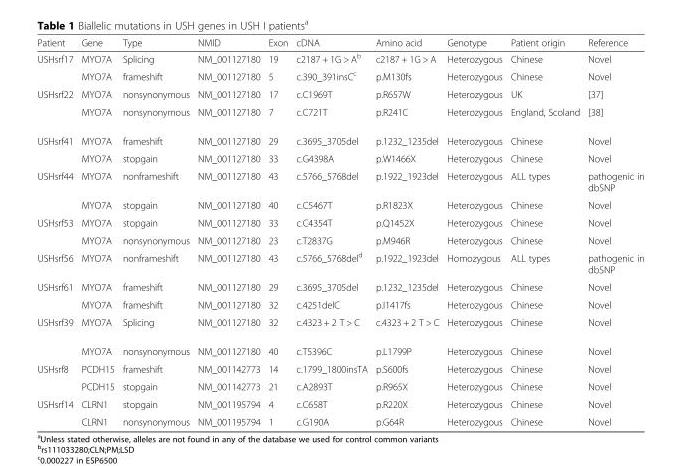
<table><thead><tr><td>Patient</td><td>Gene</td><td>Type</td><td>NMID</td><td>Exon</td><td>cDNA</td><td>Amino acid</td><td>Genotype</td><td>Patient origin</td><td>Reference</td></tr></thead><tbody><tr><td rowspan="2">USHsrf17</td><td>MYO7A</td><td>Splicing</td><td>NM_001127180</td><td>19</td><td>c2187 + 1G &gt; A<sup>b</sup></td><td>c2187 + 1G &gt; A</td><td>Heterozygous</td><td>Chinese</td><td>Novel</td></tr><tr><td>MYO7A</td><td>frameshift</td><td>NM_001127180</td><td>5</td><td>c.390_391insC<sup>c</sup></td><td>p.M130fs</td><td>Heterozygous</td><td>Chinese</td><td>Novel</td></tr><tr><td rowspan="2">USHsrf22</td><td>MYO7A</td><td>nonsynonymous</td><td>NM_001127180</td><td>17</td><td>c.C1969T</td><td>p.R657W</td><td>Heterozygous</td><td>UK</td><td>[37]</td></tr><tr><td>MYO7A</td><td>nonsynonymous</td><td>NM_001127180</td><td>7</td><td>c.C721T</td><td>p.R241C</td><td>Heterozygous</td><td>England, Scoland</td><td>[38]</td></tr><tr><td rowspan="2">USHsrf41</td><td>MYO7A</td><td>frameshift</td><td>NM_001127180</td><td>29</td><td>c.3695_3705del</td><td>p.1232_1235del</td><td>Heterozygous</td><td>Chinese</td><td>Novel</td></tr><tr><td>MYO7A</td><td>stopgain</td><td>NM_001127180</td><td>33</td><td>c.G4398A</td><td>p.W1466X</td><td>Heterozygous</td><td>Chinese</td><td>Novel</td></tr><tr><td rowspan="2">USHsrf44</td><td>MYO7A</td><td>nonframeshift</td><td>NM_001127180</td><td>43</td><td>c.5766_5768del</td><td>p.1922_1923del</td><td>Heterozygous</td><td>ALL types</td><td>pathogenic in dbSNP</td></tr><tr><td>MYO7A</td><td>stopgain</td><td>NM_001127180</td><td>40</td><td>c.C5467T</td><td>p.R1823X</td><td>Heterozygous</td><td>Chinese</td><td>Novel</td></tr><tr><td rowspan="2">USHsrf53</td><td>MYO7A</td><td>stopgain</td><td>NM_001127180</td><td>33</td><td>c.C4354T</td><td>p.Q1452X</td><td>Heterozygous</td><td>Chinese</td><td>Novel</td></tr><tr><td>MYO7A</td><td>nonsynonymous</td><td>NM_001127180</td><td>23</td><td>c.T2837G</td><td>p.M946R</td><td>Heterozygous</td><td>Chinese</td><td>Novel</td></tr><tr><td>USHsrf56</td><td>MYO7A</td><td>nonframeshift</td><td>NM_001127180</td><td>43</td><td>c.5766_5768del<sup>d</sup></td><td>p.1922_1923del</td><td>Homozygous</td><td>ALL types</td><td>pathogenic in dbSNP</td></tr><tr><td rowspan="2">USHsrf61</td><td>MYO7A</td><td>frameshift</td><td>NM_001127180</td><td>29</td><td>c.3695_3705del</td><td>p.1232_1235del</td><td>Heterozygous</td><td>Chinese</td><td>Novel</td></tr><tr><td>MYO7A</td><td>frameshift</td><td>NM_001127180</td><td>32</td><td>c.4251delC</td><td>p.I1417fs</td><td>Heterozygous</td><td>Chinese</td><td>Novel</td></tr><tr><td rowspan="2">USHsrf39</td><td>MYO7A</td><td>Splicing</td><td>NM_001127180</td><td>32</td><td>c.4323 + 2 T &gt; C</td><td>c.4323 + 2 T &gt; C</td><td>Heterozygous</td><td>Chinese</td><td>Novel</td></tr><tr><td>MYO7A</td><td>nonsynonymous</td><td>NM_001127180</td><td>40</td><td>c.T5396C</td><td>p.L1799P</td><td>Heterozygous</td><td>Chinese</td><td>Novel</td></tr><tr><td rowspan="2">USHsrf8</td><td>PCDH15</td><td>frameshift</td><td>NM_001142773</td><td>14</td><td>c.1799_1800insTA</td><td>p.S600fs</td><td>Heterozygous</td><td>Chinese</td><td>Novel</td></tr><tr><td>PCDH15</td><td>stopgain</td><td>NM_001142773</td><td>21</td><td>c.A2893T</td><td>p.R965X</td><td>Heterozygous</td><td>Chinese</td><td>Novel</td></tr><tr><td rowspan="2">USHsrf14</td><td>CLRN1</td><td>stopgain</td><td>NM_001195794</td><td>4</td><td>c.C658T</td><td>p.R220X</td><td>Heterozygous</td><td>Chinese</td><td>Novel</td></tr><tr><td>CLRN1</td><td>nonsynonymous</td><td>NM_001195794</td><td>1</td><td>c.G190A</td><td>p.G64R</td><td>Heterozygous</td><td>Chinese</td><td>Novel</td></tr></tbody></table>